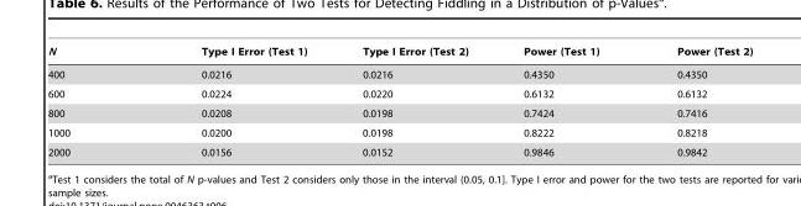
<table><thead><tr><td>N</td><td>Type I Error (Test 1)</td><td>Type I Error (Test 2)</td><td>Power (Test 1)</td><td>Power (Test 2)</td></tr></thead><tbody><tr><td>400</td><td>0.0216</td><td>0.0216</td><td>0.4350</td><td>0.4350</td></tr><tr><td>600</td><td>0.0224</td><td>0.0220</td><td>0.6132</td><td>0.6132</td></tr><tr><td>800</td><td>0.0208</td><td>0.0198</td><td>0.7424</td><td>0.7416</td></tr><tr><td>1000</td><td>0.0200</td><td>0.0198</td><td>0.8222</td><td>0.8218</td></tr><tr><td>2000</td><td>0.0156</td><td>0.0152</td><td>0.9846</td><td>0.9842</td></tr></tbody></table>